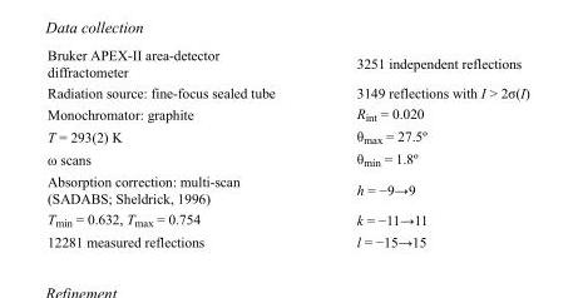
<table><tbody><tr><td>Bruker APEX-II area-detector diffractometer</td><td>3251 independent reflections</td></tr><tr><td>Radiation source: fine-focus sealed tube</td><td>3149 reflections with I &gt; 2σ(I)</td></tr><tr><td>Monochromator: graphite</td><td>R<sub>int</sub> = 0.020</td></tr><tr><td>T = 293(2) K</td><td>θ<sub>max</sub> = 27.5º</td></tr><tr><td>ω scans</td><td>θ<sub>min</sub> = 1.8º</td></tr><tr><td>Absorption correction: multi-scan (SADABS; Sheldrick, 1996)</td><td>h = −9→9</td></tr><tr><td>T<sub>min</sub> = 0.632, T<sub>max</sub> = 0.754</td><td>k = −11→11</td></tr><tr><td>12281 measured reflections</td><td>l = −15→15</td></tr></tbody></table>